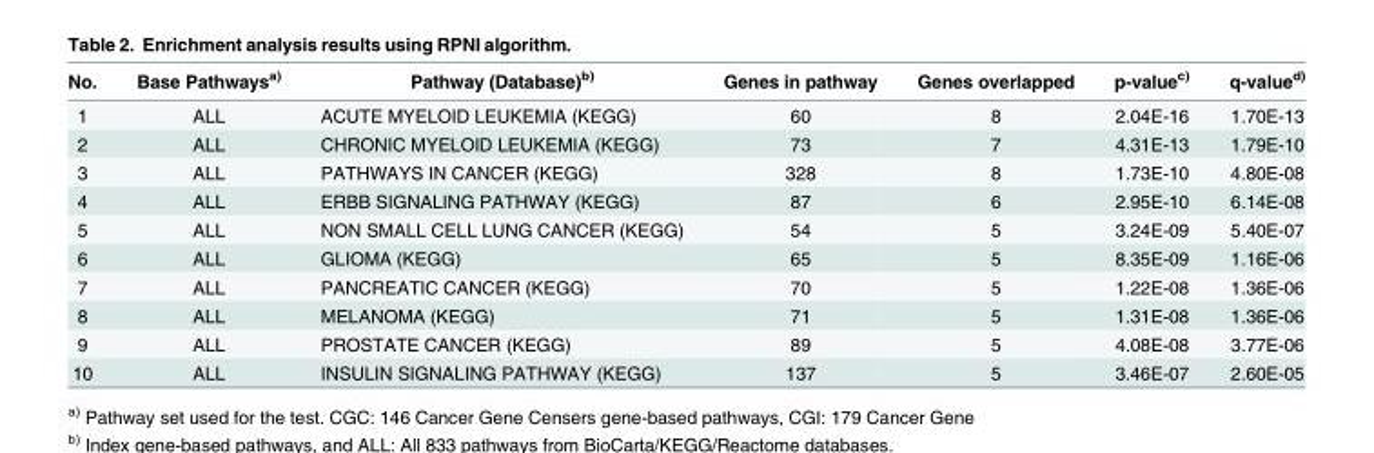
<table><thead><tr><td>No.</td><td>Base Pathways<sup>a)</sup></td><td>Pathway (Database)<sup>b)</sup></td><td>Genes in pathway</td><td>Genes overlapped</td><td>p-value<sup>c)</sup></td><td>q-value<sup>d)</sup></td></tr></thead><tbody><tr><td>1</td><td>ALL</td><td>ACUTE MYELOID LEUKEMIA (KEGG)</td><td>60</td><td>8</td><td>2.04E-16</td><td>1.70E-13</td></tr><tr><td>2</td><td>ALL</td><td>CHRONIC MYELOID LEUKEMIA (KEGG)</td><td>73</td><td>7</td><td>4.31E-13</td><td>1.79E-10</td></tr><tr><td>3</td><td>ALL</td><td>PATHWAYS IN CANCER (KEGG)</td><td>328</td><td>8</td><td>1.73E-10</td><td>4.80E-08</td></tr><tr><td>4</td><td>ALL</td><td>ERBB SIGNALING PATHWAY (KEGG)</td><td>87</td><td>6</td><td>2.95E-10</td><td>6.14E-08</td></tr><tr><td>5</td><td>ALL</td><td>NON SMALL CELL LUNG CANCER (KEGG)</td><td>54</td><td>5</td><td>3.24E-09</td><td>5.40E-07</td></tr><tr><td>6</td><td>ALL</td><td>GLIOMA (KEGG)</td><td>65</td><td>5</td><td>8.35E-09</td><td>1.16E-06</td></tr><tr><td>7</td><td>ALL</td><td>PANCREATIC CANCER (KEGG)</td><td>70</td><td>5</td><td>1.22E-08</td><td>1.36E-06</td></tr><tr><td>8</td><td>ALL</td><td>MELANOMA (KEGG)</td><td>71</td><td>5</td><td>1.31E-08</td><td>1.36E-06</td></tr><tr><td>9</td><td>ALL</td><td>PROSTATE CANCER (KEGG)</td><td>89</td><td>5</td><td>4.08E-08</td><td>3.77E-06</td></tr><tr><td>10</td><td>ALL</td><td>INSULIN SIGNALING PATHWAY (KEGG)</td><td>137</td><td>5</td><td>3.46E-07</td><td>2.60E-05</td></tr></tbody></table>